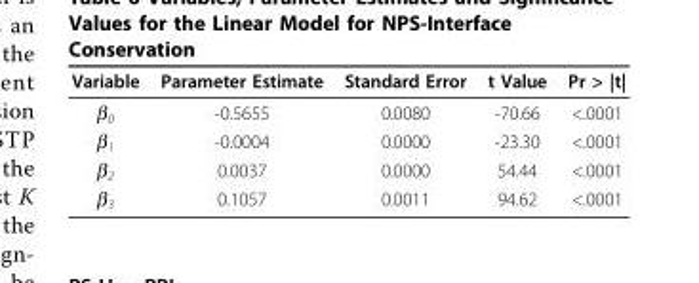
<table><thead><tr><td>Variable</td><td>Parameter Estimate</td><td>Standard Error</td><td>t Value</td><td>Pr &gt; |t|</td></tr></thead><tbody><tr><td>β<sub>0</sub></td><td>-0.5655</td><td>0.0080</td><td>-70.66</td><td>&lt;.0001</td></tr><tr><td>β<sub>1</sub></td><td>-0.0004</td><td>0.0000</td><td>-23.30</td><td>&lt;.0001</td></tr><tr><td>β<sub>2</sub></td><td>0.0037</td><td>0.0000</td><td>54.44</td><td>&lt;.0001</td></tr><tr><td>β<sub>3</sub></td><td>0.1057</td><td>0.0011</td><td>94.62</td><td>&lt;.0001</td></tr></tbody></table>